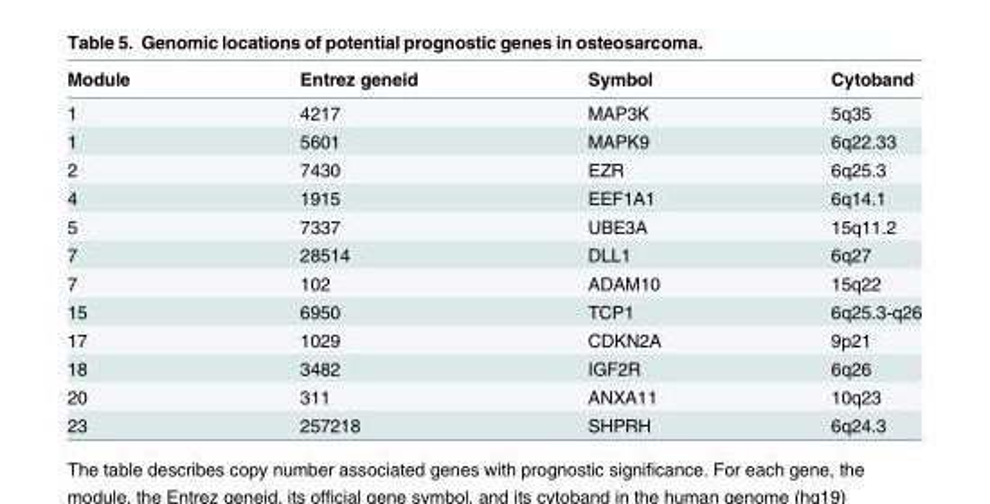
<table><thead><tr><td>Module</td><td>Entrez geneid</td><td>Symbol</td><td>Cytoband</td></tr></thead><tbody><tr><td>1</td><td>4217</td><td>MAP3K</td><td>5q35</td></tr><tr><td>1</td><td>5601</td><td>MAPK9</td><td>6q22.33</td></tr><tr><td>2</td><td>7430</td><td>EZR</td><td>6q25.3</td></tr><tr><td>4</td><td>1915</td><td>EEF1A1</td><td>6q14.1</td></tr><tr><td>5</td><td>7337</td><td>UBE3A</td><td>15q11.2</td></tr><tr><td>7</td><td>28514</td><td>DLL1</td><td>6q27</td></tr><tr><td>7</td><td>102</td><td>ADAM10</td><td>15q22</td></tr><tr><td>15</td><td>6950</td><td>TCP1</td><td>6q25.3-q26</td></tr><tr><td>17</td><td>1029</td><td>CDKN2A</td><td>9p21</td></tr><tr><td>18</td><td>3482</td><td>IGF2R</td><td>6q26</td></tr><tr><td>20</td><td>311</td><td>ANXA11</td><td>10q23</td></tr><tr><td>23</td><td>257218</td><td>SHPRH</td><td>6q24.3</td></tr></tbody></table>